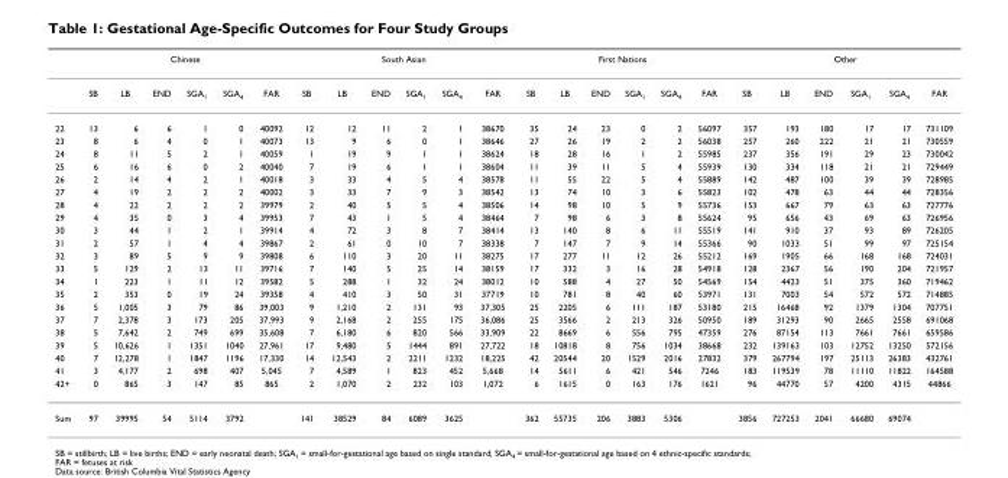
<table><thead><tr><td rowspan="2"></td><td colspan="6">Chinese</td><td colspan="6">South Asian</td><td colspan="6">First Nations</td><td colspan="6">Other</td></tr><tr><td>SB</td><td>LB</td><td>END</td><td>SGA<sub>1</sub></td><td>SGA<sub>4</sub></td><td>FAR</td><td>SB</td><td>LB</td><td>END</td><td>SGA<sub>1</sub></td><td>SGA<sub>4</sub></td><td>FAR</td><td>SB</td><td>LB</td><td>END</td><td>SGA<sub>1</sub></td><td>SGA<sub>4</sub></td><td>FAR</td><td>SB</td><td>LB</td><td>END</td><td>SGA<sub>1</sub></td><td>SGA<sub>4</sub></td><td>FAR</td></tr></thead><tbody><tr><td>22</td><td>13</td><td>6</td><td>6</td><td>1</td><td>0</td><td>40092</td><td>12</td><td>12</td><td>11</td><td>2</td><td>1</td><td>38670</td><td>35</td><td>24</td><td>23</td><td>0</td><td>2</td><td>56097</td><td>357</td><td>193</td><td>180</td><td>17</td><td>17</td><td>731109</td></tr><tr><td>23</td><td>8</td><td>6</td><td>4</td><td>0</td><td>1</td><td>40073</td><td>13</td><td>9</td><td>6</td><td>0</td><td>1</td><td>38646</td><td>27</td><td>26</td><td>19</td><td>2</td><td>2</td><td>56038</td><td>257</td><td>260</td><td>222</td><td>21</td><td>21</td><td>730559</td></tr><tr><td>24</td><td>8</td><td>11</td><td>5</td><td>2</td><td>1</td><td>40059</td><td>1</td><td>19</td><td>9</td><td>1</td><td>1</td><td>38624</td><td>18</td><td>28</td><td>16</td><td>1</td><td>2</td><td>55985</td><td>237</td><td>356</td><td>191</td><td>29</td><td>23</td><td>730042</td></tr><tr><td>25</td><td>6</td><td>16</td><td>6</td><td>0</td><td>2</td><td>40040</td><td>7</td><td>19</td><td>6</td><td>1</td><td>1</td><td>38604</td><td>11</td><td>39</td><td>11</td><td>5</td><td>4</td><td>55939</td><td>130</td><td>334</td><td>118</td><td>21</td><td>21</td><td>729449</td></tr><tr><td>26</td><td>2</td><td>14</td><td>4</td><td>2</td><td>1</td><td>40018</td><td>3</td><td>33</td><td>4</td><td>5</td><td>4</td><td>38578</td><td>11</td><td>55</td><td>22</td><td>5</td><td>4</td><td>55889</td><td>142</td><td>487</td><td>100</td><td>39</td><td>39</td><td>728985</td></tr><tr><td>27</td><td>4</td><td>19</td><td>2</td><td>2</td><td>2</td><td>40002</td><td>3</td><td>33</td><td>7</td><td>9</td><td>3</td><td>38542</td><td>13</td><td>74</td><td>10</td><td>3</td><td>6</td><td>55823</td><td>102</td><td>478</td><td>63</td><td>44</td><td>44</td><td>728356</td></tr><tr><td>28</td><td>4</td><td>22</td><td>2</td><td>2</td><td>2</td><td>39979</td><td>2</td><td>40</td><td>5</td><td>5</td><td>4</td><td>38506</td><td>14</td><td>98</td><td>10</td><td>5</td><td>9</td><td>55736</td><td>153</td><td>667</td><td>79</td><td>63</td><td>63</td><td>727776</td></tr><tr><td>29</td><td>4</td><td>35</td><td>0</td><td>3</td><td>4</td><td>39953</td><td>7</td><td>43</td><td>1</td><td>5</td><td>4</td><td>38464</td><td>7</td><td>98</td><td>6</td><td>3</td><td>8</td><td>55624</td><td>95</td><td>656</td><td>43</td><td>69</td><td>63</td><td>726956</td></tr><tr><td>30</td><td>3</td><td>44</td><td>1</td><td>2</td><td>1</td><td>39914</td><td>4</td><td>72</td><td>3</td><td>8</td><td>7</td><td>38414</td><td>13</td><td>140</td><td>8</td><td>6</td><td>11</td><td>55519</td><td>141</td><td>910</td><td>37</td><td>93</td><td>89</td><td>726205</td></tr><tr><td>31</td><td>2</td><td>57</td><td>1</td><td>4</td><td>4</td><td>39867</td><td>2</td><td>61</td><td>0</td><td>10</td><td>7</td><td>38338</td><td>7</td><td>147</td><td>7</td><td>9</td><td>14</td><td>55366</td><td>90</td><td>1033</td><td>51</td><td>99</td><td>97</td><td>725154</td></tr><tr><td>32</td><td>3</td><td>89</td><td>5</td><td>9</td><td>9</td><td>39808</td><td>6</td><td>110</td><td>3</td><td>20</td><td>11</td><td>38275</td><td>17</td><td>277</td><td>11</td><td>12</td><td>26</td><td>55212</td><td>169</td><td>1905</td><td>66</td><td>168</td><td>168</td><td>724031</td></tr><tr><td>33</td><td>5</td><td>129</td><td>2</td><td>13</td><td>11</td><td>39716</td><td>7</td><td>140</td><td>5</td><td>25</td><td>14</td><td>38159</td><td>17</td><td>332</td><td>3</td><td>16</td><td>28</td><td>54918</td><td>128</td><td>2367</td><td>56</td><td>190</td><td>204</td><td>721957</td></tr><tr><td>34</td><td>1</td><td>223</td><td>1</td><td>11</td><td>12</td><td>39582</td><td>5</td><td>288</td><td>1</td><td>32</td><td>24</td><td>38012</td><td>10</td><td>588</td><td>4</td><td>27</td><td>50</td><td>54569</td><td>154</td><td>4423</td><td>51</td><td>375</td><td>360</td><td>719462</td></tr><tr><td>35</td><td>2</td><td>353</td><td>0</td><td>19</td><td>24</td><td>39358</td><td>4</td><td>410</td><td>3</td><td>50</td><td>31</td><td>37719</td><td>10</td><td>781</td><td>8</td><td>40</td><td>60</td><td>53971</td><td>131</td><td>7003</td><td>54</td><td>572</td><td>572</td><td>714885</td></tr><tr><td>36</td><td>5</td><td>1,005</td><td>3</td><td>79</td><td>86</td><td>39,003</td><td>9</td><td>1,210</td><td>2</td><td>131</td><td>93</td><td>37,305</td><td>25</td><td>2205</td><td>6</td><td>111</td><td>187</td><td>53180</td><td>215</td><td>16468</td><td>92</td><td>1379</td><td>1304</td><td>707751</td></tr><tr><td>37</td><td>7</td><td>2,378</td><td>3</td><td>173</td><td>205</td><td>37,993</td><td>9</td><td>2,168</td><td>2</td><td>255</td><td>175</td><td>36,086</td><td>25</td><td>3566</td><td>2</td><td>213</td><td>326</td><td>50950</td><td>189</td><td>31293</td><td>90</td><td>2665</td><td>2558</td><td>691068</td></tr><tr><td>38</td><td>5</td><td>7,642</td><td>2</td><td>749</td><td>699</td><td>35,608</td><td>7</td><td>6,180</td><td>6</td><td>820</td><td>566</td><td>33,909</td><td>22</td><td>8669</td><td>6</td><td>556</td><td>795</td><td>47359</td><td>276</td><td>87154</td><td>113</td><td>7661</td><td>7661</td><td>659586</td></tr><tr><td>39</td><td>5</td><td>10,626</td><td>1</td><td>1351</td><td>1040</td><td>27,961</td><td>17</td><td>9,480</td><td>5</td><td>1444</td><td>891</td><td>27,722</td><td>18</td><td>10818</td><td>8</td><td>756</td><td>1034</td><td>38668</td><td>232</td><td>139163</td><td>103</td><td>12752</td><td>13250</td><td>572156</td></tr><tr><td>40</td><td>7</td><td>12,278</td><td>1</td><td>1847</td><td>1196</td><td>17,330</td><td>14</td><td>12,543</td><td>2</td><td>2211</td><td>1232</td><td>18,225</td><td>42</td><td>20544</td><td>20</td><td>1529</td><td>2016</td><td>27832</td><td>379</td><td>267794</td><td>197</td><td>25113</td><td>26383</td><td>432761</td></tr><tr><td>41</td><td>3</td><td>4,177</td><td>2</td><td>698</td><td>407</td><td>5,045</td><td>7</td><td>4,589</td><td>1</td><td>823</td><td>452</td><td>5,668</td><td>14</td><td>5611</td><td>6</td><td>421</td><td>546</td><td>7246</td><td>183</td><td>119539</td><td>78</td><td>11110</td><td>11822</td><td>164588</td></tr><tr><td>42+</td><td>0</td><td>865</td><td>3</td><td>147</td><td>85</td><td>865</td><td>2</td><td>1,070</td><td>2</td><td>232</td><td>103</td><td>1,072</td><td>6</td><td>1615</td><td>0</td><td>163</td><td>176</td><td>1621</td><td>96</td><td>44770</td><td>57</td><td>4200</td><td>4315</td><td>44866</td></tr><tr><td>Sum</td><td>97</td><td>39995</td><td>54</td><td>5114</td><td>3792</td><td></td><td>141</td><td>38529</td><td>84</td><td>6089</td><td>3625</td><td></td><td>362</td><td>55735</td><td>206</td><td>3883</td><td>5306</td><td></td><td>3856</td><td>727253</td><td>2041</td><td>66680</td><td>69074</td><td></td></tr></tbody></table>